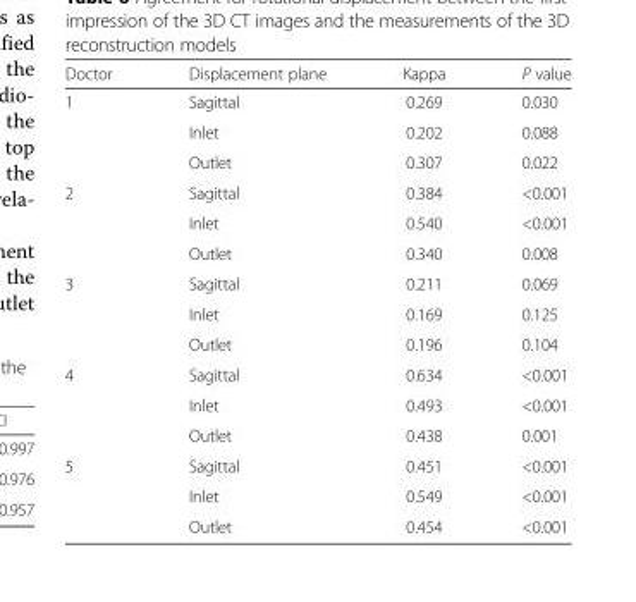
<table><thead><tr><td>Doctor</td><td>Displacement plane</td><td>Kappa</td><td>P value</td></tr></thead><tbody><tr><td rowspan="3">1</td><td>Sagittal</td><td>0.269</td><td>0.030</td></tr><tr><td>Inlet</td><td>0.202</td><td>0.088</td></tr><tr><td>Outlet</td><td>0.307</td><td>0.022</td></tr><tr><td rowspan="3">2</td><td>Sagittal</td><td>0.384</td><td>&lt;0.001</td></tr><tr><td>Inlet</td><td>0.540</td><td>&lt;0.001</td></tr><tr><td>Outlet</td><td>0.340</td><td>0.008</td></tr><tr><td rowspan="3">3</td><td>Sagittal</td><td>0.211</td><td>0.069</td></tr><tr><td>Inlet</td><td>0.169</td><td>0.125</td></tr><tr><td>Outlet</td><td>0.196</td><td>0.104</td></tr><tr><td rowspan="3">4</td><td>Sagittal</td><td>0.634</td><td>&lt;0.001</td></tr><tr><td>Inlet</td><td>0.493</td><td>&lt;0.001</td></tr><tr><td>Outlet</td><td>0.438</td><td>0.001</td></tr><tr><td rowspan="3">5</td><td>Sagittal</td><td>0.451</td><td>&lt;0.001</td></tr><tr><td>Inlet</td><td>0.549</td><td>&lt;0.001</td></tr><tr><td>Outlet</td><td>0.454</td><td>&lt;0.001</td></tr></tbody></table>